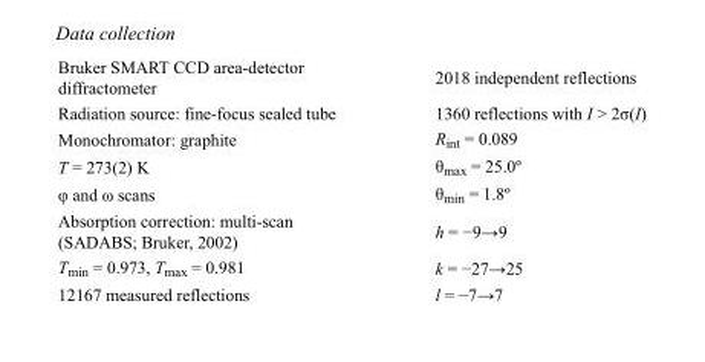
<table><tbody><tr><td>Bruker SMART CCD area-detector diffractometer</td><td>2018 independent reflections</td></tr><tr><td>Radiation source: fine-focus sealed tube</td><td>1360 reflections with I &gt; 2σ(I)</td></tr><tr><td>Monochromator: graphite</td><td>R<sub>int</sub> = 0.089</td></tr><tr><td>T = 273(2) K</td><td>θ<sub>max</sub> = 25.0º</td></tr><tr><td>φ and ω scans</td><td>θ<sub>min</sub> = 1.8º</td></tr><tr><td>Absorption correction: multi-scan (SADABS; Bruker, 2002)</td><td>h = −9→9</td></tr><tr><td>T<sub>min</sub> = 0.973, T<sub>max</sub> = 0.981</td><td>k = −27→25</td></tr><tr><td>12167 measured reflections</td><td>l = −7→7</td></tr></tbody></table>